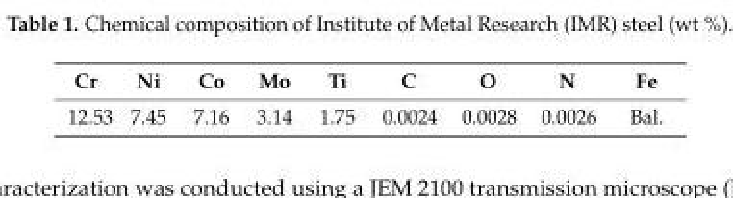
<table><thead><tr><td>Cr</td><td>Ni</td><td>Co</td><td>Mo</td><td>Ti</td><td>C</td><td>O</td><td>N</td><td>Fe</td></tr></thead><tbody><tr><td>12.53</td><td>7.45</td><td>7.16</td><td>3.14</td><td>1.75</td><td>0.0024</td><td>0.0028</td><td>0.0026</td><td>Bal.</td></tr></tbody></table>